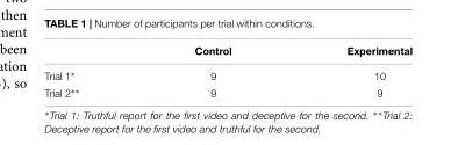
<table><thead><tr><td></td><td>Control</td><td>Experimental</td></tr></thead><tbody><tr><td>Trial 1∗</td><td>9</td><td>10</td></tr><tr><td>Trial 2∗∗</td><td>9</td><td>9</td></tr></tbody></table>